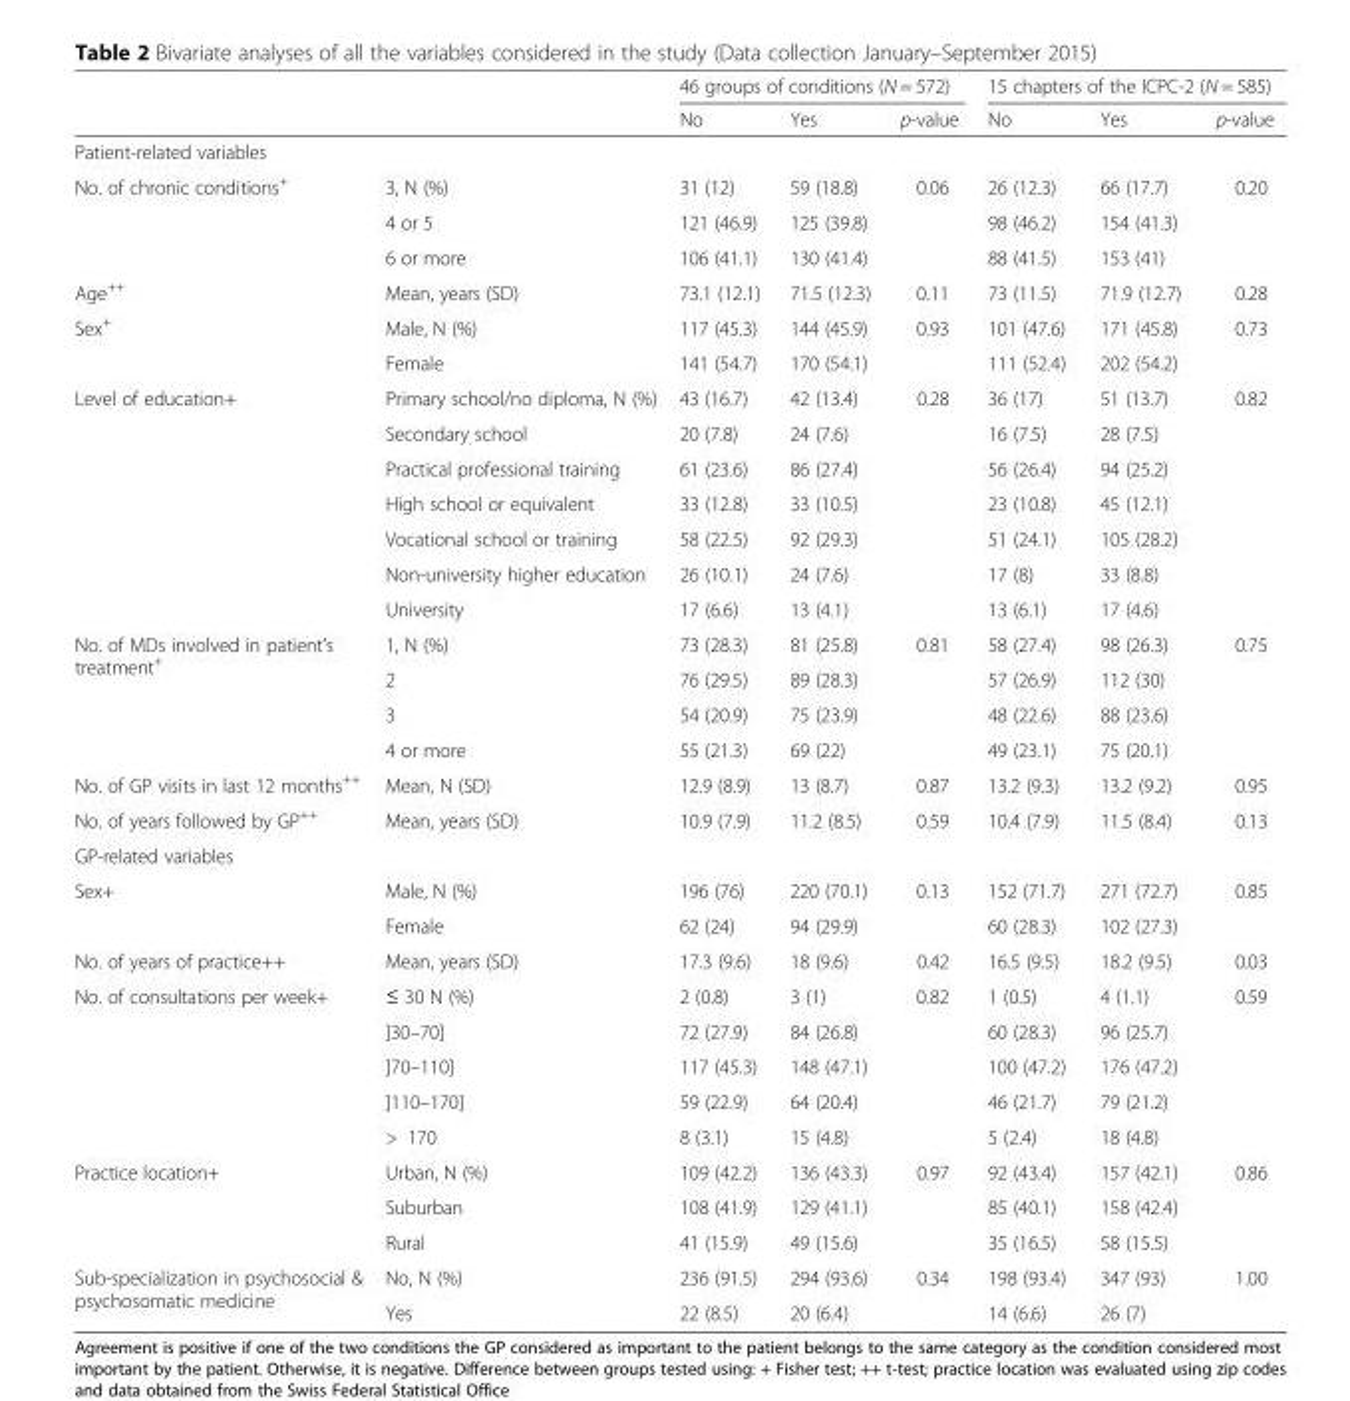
<table><thead><tr><td rowspan="2"></td><td rowspan="2"></td><td colspan="3">46 groups of conditions (N = 572)</td><td colspan="3">15 chapters of the ICPC-2 (N = 585)</td></tr><tr><td>No</td><td>Yes</td><td>p-value</td><td>No</td><td>Yes</td><td>p-value</td></tr></thead><tbody><tr><td colspan="8">Patient-related variables</td></tr><tr><td rowspan="3">No. of chronic conditions<sup>+</sup></td><td>3, N (%)</td><td>31 (12)</td><td>59 (18.8)</td><td rowspan="3">0.06</td><td>26 (12.3)</td><td>66 (17.7)</td><td rowspan="3">0.20</td></tr><tr><td>4 or 5</td><td>121 (46.9)</td><td>125 (39.8)</td><td>98 (46.2)</td><td>154 (41.3)</td></tr><tr><td>6 or more</td><td>106 (41.1)</td><td>130 (41.4)</td><td>88 (41.5)</td><td>153 (41)</td></tr><tr><td>Age<sup>++</sup></td><td>Mean, years (SD)</td><td>73.1 (12.1)</td><td>71.5 (12.3)</td><td>0.11</td><td>73 (11.5)</td><td>71.9 (12.7)</td><td>0.28</td></tr><tr><td rowspan="2">Sex<sup>+</sup></td><td>Male, N (%)</td><td>117 (45.3)</td><td>144 (45.9)</td><td rowspan="2">0.93</td><td>101 (47.6)</td><td>171 (45.8)</td><td rowspan="2">0.73</td></tr><tr><td>Female</td><td>141 (54.7)</td><td>170 (54.1)</td><td>111 (52.4)</td><td>202 (54.2)</td></tr><tr><td rowspan="7">Level of education+</td><td>Primary school/no diploma, N (%)</td><td>43 (16.7)</td><td>42 (13.4)</td><td rowspan="7">0.28</td><td>36 (17)</td><td>51 (13.7)</td><td rowspan="7">0.82</td></tr><tr><td>Secondary school</td><td>20 (7.8)</td><td>24 (7.6)</td><td>16 (7.5)</td><td>28 (7.5)</td></tr><tr><td>Practical professional training</td><td>61 (23.6)</td><td>86 (27.4)</td><td>56 (26.4)</td><td>94 (25.2)</td></tr><tr><td>High school or equivalent</td><td>33 (12.8)</td><td>33 (10.5)</td><td>23 (10.8)</td><td>45 (12.1)</td></tr><tr><td>Vocational school or training</td><td>58 (22.5)</td><td>92 (29.3)</td><td>51 (24.1)</td><td>105 (28.2)</td></tr><tr><td>Non-university higher education</td><td>26 (10.1)</td><td>24 (7.6)</td><td>17 (8)</td><td>33 (8.8)</td></tr><tr><td>University</td><td>17 (6.6)</td><td>13 (4.1)</td><td>13 (6.1)</td><td>17 (4.6)</td></tr><tr><td rowspan="4">No. of MDs involved in patient’s treatment<sup>+</sup></td><td>1, N (%)</td><td>73 (28.3)</td><td>81 (25.8)</td><td rowspan="4">0.81</td><td>58 (27.4)</td><td>98 (26.3)</td><td rowspan="4">0.75</td></tr><tr><td>2</td><td>76 (29.5)</td><td>89 (28.3)</td><td>57 (26.9)</td><td>112 (30)</td></tr><tr><td>3</td><td>54 (20.9)</td><td>75 (23.9)</td><td>48 (22.6)</td><td>88 (23.6)</td></tr><tr><td>4 or more</td><td>55 (21.3)</td><td>69 (22)</td><td>49 (23.1)</td><td>75 (20.1)</td></tr><tr><td>No. of GP visits in last 12 months<sup>++</sup></td><td>Mean, N (SD)</td><td>12.9 (8.9)</td><td>13 (8.7)</td><td>0.87</td><td>13.2 (9.3)</td><td>13.2 (9.2)</td><td>0.95</td></tr><tr><td>No. of years followed by GP<sup>++</sup></td><td>Mean, years (SD)</td><td>10.9 (7.9)</td><td>11.2 (8.5)</td><td>0.59</td><td>10.4 (7.9)</td><td>11.5 (8.4)</td><td>0.13</td></tr><tr><td colspan="8">GP-related variables</td></tr><tr><td rowspan="2">Sex+</td><td>Male, N (%)</td><td>196 (76)</td><td>220 (70.1)</td><td rowspan="2">0.13</td><td>152 (71.7)</td><td>271 (72.7)</td><td rowspan="2">0.85</td></tr><tr><td>Female</td><td>62 (24)</td><td>94 (29.9)</td><td>60 (28.3)</td><td>102 (27.3)</td></tr><tr><td>No. of years of practice++</td><td>Mean, years (SD)</td><td>17.3 (9.6)</td><td>18 (9.6)</td><td>0.42</td><td>16.5 (9.5)</td><td>18.2 (9.5)</td><td>0.03</td></tr><tr><td rowspan="5">No. of consultations per week+</td><td>≤ 30 N (%)</td><td>2 (0.8)</td><td>3 (1)</td><td rowspan="5">0.82</td><td>1 (0.5)</td><td>4 (1.1)</td><td rowspan="5">0.59</td></tr><tr><td>]30–70]</td><td>72 (27.9)</td><td>84 (26.8)</td><td>60 (28.3)</td><td>96 (25.7)</td></tr><tr><td>]70–110]</td><td>117 (45.3)</td><td>148 (47.1)</td><td>100 (47.2)</td><td>176 (47.2)</td></tr><tr><td>]110–170]</td><td>59 (22.9)</td><td>64 (20.4)</td><td>46 (21.7)</td><td>79 (21.2)</td></tr><tr><td>&gt; 170</td><td>8 (3.1)</td><td>15 (4.8)</td><td>5 (2.4)</td><td>18 (4.8)</td></tr><tr><td rowspan="3">Practice location+</td><td>Urban, N (%)</td><td>109 (42.2)</td><td>136 (43.3)</td><td rowspan="3">0.97</td><td>92 (43.4)</td><td>157 (42.1)</td><td rowspan="3">0.86</td></tr><tr><td>Suburban</td><td>108 (41.9)</td><td>129 (41.1)</td><td>85 (40.1)</td><td>158 (42.4)</td></tr><tr><td>Rural</td><td>41 (15.9)</td><td>49 (15.6)</td><td>35 (16.5)</td><td>58 (15.5)</td></tr><tr><td rowspan="2">Sub-specialization in psychosocial &amp; psychosomatic medicine</td><td>No, N (%)</td><td>236 (91.5)</td><td>294 (93.6)</td><td rowspan="2">0.34</td><td>198 (93.4)</td><td>347 (93)</td><td rowspan="2">1.00</td></tr><tr><td>Yes</td><td>22 (8.5)</td><td>20 (6.4)</td><td>14 (6.6)</td><td>26 (7)</td></tr></tbody></table>